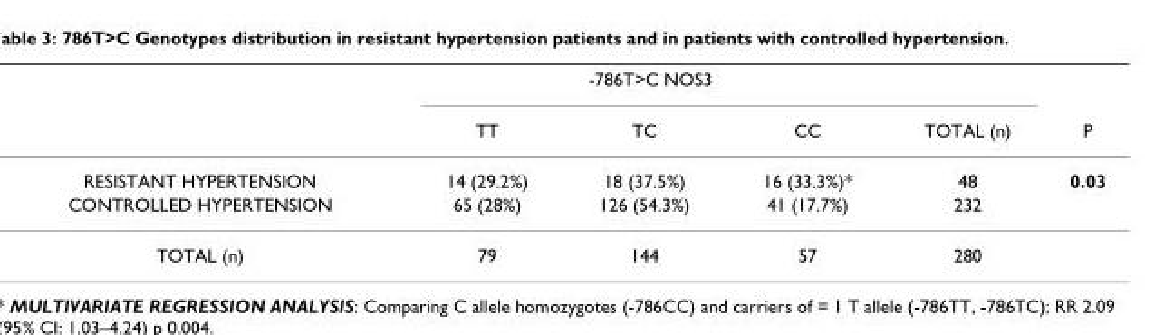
<table><thead><tr><td rowspan="2"></td><td colspan="3">-786T&gt;C NOS3</td><td rowspan="2">TOTAL (n)</td><td rowspan="2">P</td></tr><tr><td>TT</td><td>TC</td><td>CC</td></tr></thead><tbody><tr><td>RESISTANT HYPERTENSION</td><td>14 (29.2%)</td><td>18 (37.5%)</td><td>16 (33.3%)*</td><td>48</td><td>0.03</td></tr><tr><td>CONTROLLED HYPERTENSION</td><td>65 (28%)</td><td>126 (54.3%)</td><td>41 (17.7%)</td><td>232</td><td></td></tr><tr><td>TOTAL (n)</td><td>79</td><td>144</td><td>57</td><td>280</td><td></td></tr></tbody></table>